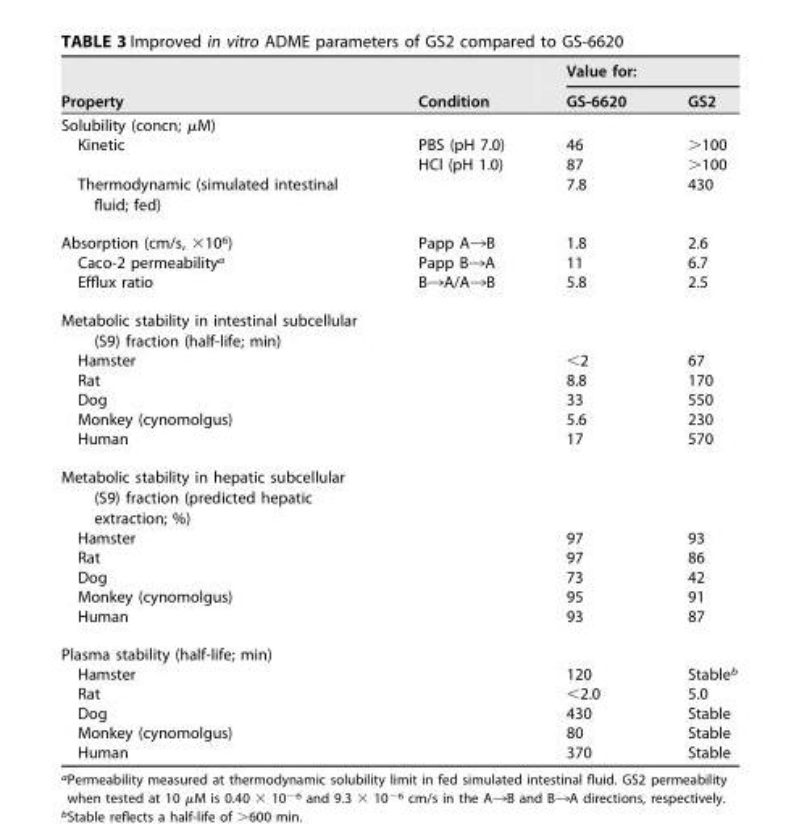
<table><thead><tr><td rowspan="2">Property</td><td rowspan="2">Condition</td><td colspan="2">Value for:</td></tr><tr><td>GS-6620</td><td>GS2</td></tr></thead><tbody><tr><td colspan="4">Solubility (concn; μM)</td></tr><tr><td rowspan="2">Kinetic</td><td>PBS (pH 7.0)</td><td>46</td><td>&gt;100</td></tr><tr><td>HCl (pH 1.0)</td><td>87</td><td>&gt;100</td></tr><tr><td>Thermodynamic (simulated intestinal fluid; fed)</td><td></td><td>7.8</td><td>430</td></tr><tr><td>Absorption (cm/s, ×10<sup>6</sup>)</td><td>Papp A→B</td><td>1.8</td><td>2.6</td></tr><tr><td>Caco-2 permeability<sup>a</sup></td><td>Papp B→A</td><td>11</td><td>6.7</td></tr><tr><td>Efflux ratio</td><td>B→A/A→B</td><td>5.8</td><td>2.5</td></tr><tr><td colspan="4">Metabolic stability in intestinal subcellular (S9) fraction (half-life; min)</td></tr><tr><td>Hamster</td><td></td><td>&lt;2</td><td>67</td></tr><tr><td>Rat</td><td></td><td>8.8</td><td>170</td></tr><tr><td>Dog</td><td></td><td>33</td><td>550</td></tr><tr><td>Monkey (cynomolgus)</td><td></td><td>5.6</td><td>230</td></tr><tr><td>Human</td><td></td><td>17</td><td>570</td></tr><tr><td colspan="4">Metabolic stability in hepatic subcellular (S9) fraction (predicted hepatic extraction; %)</td></tr><tr><td>Hamster</td><td></td><td>97</td><td>93</td></tr><tr><td>Rat</td><td></td><td>97</td><td>86</td></tr><tr><td>Dog</td><td></td><td>73</td><td>42</td></tr><tr><td>Monkey (cynomolgus)</td><td></td><td>95</td><td>91</td></tr><tr><td>Human</td><td></td><td>93</td><td>87</td></tr><tr><td colspan="4">Plasma stability (half-life; min)</td></tr><tr><td>Hamster</td><td></td><td>120</td><td>Stable<sup>b</sup></td></tr><tr><td>Rat</td><td></td><td>&lt;2.0</td><td>5.0</td></tr><tr><td>Dog</td><td></td><td>430</td><td>Stable</td></tr><tr><td>Monkey (cynomolgus)</td><td></td><td>80</td><td>Stable</td></tr><tr><td>Human</td><td></td><td>370</td><td>Stable</td></tr></tbody></table>